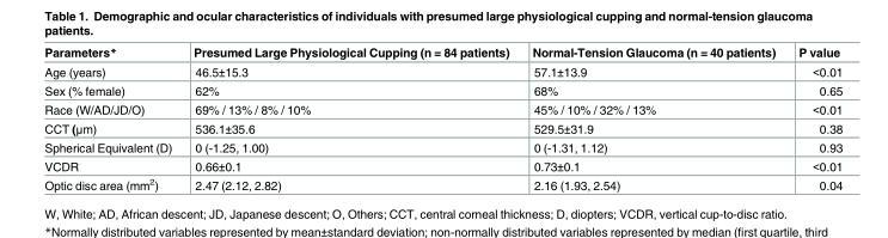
<table><thead><tr><td>Parameters*</td><td>Presumed Large Physiological Cupping (n = 84 patients)</td><td>Normal-Tension Glaucoma (n = 40 patients)</td><td>P value</td></tr></thead><tbody><tr><td>Age (years)</td><td>46.5±15.3</td><td>57.1±13.9</td><td>&lt;0.01</td></tr><tr><td>Sex (% female)</td><td>62%</td><td>68%</td><td>0.65</td></tr><tr><td>Race (W/AD/JD/O)</td><td>69% / 13% / 8% / 10%</td><td>45% / 10% / 32% / 13%</td><td>&lt;0.01</td></tr><tr><td>CCT (μm)</td><td>536.1±35.6</td><td>529.5±31.9</td><td>0.38</td></tr><tr><td>Spherical Equivalent (D)</td><td>0 (-1.25, 1.00)</td><td>0 (-1.31, 1.12)</td><td>0.93</td></tr><tr><td>VCDR</td><td>0.66±0.1</td><td>0.73±0.1</td><td>&lt;0.01</td></tr><tr><td>Optic disc area (mm<sup>2</sup>)</td><td>2.47 (2.12, 2.82)</td><td>2.16 (1.93, 2.54)</td><td>0.04</td></tr></tbody></table>